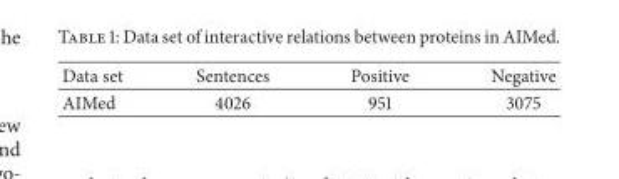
<table><thead><tr><td>Data set</td><td>Sentences</td><td>Positive</td><td>Negative</td></tr></thead><tbody><tr><td>AIMed</td><td>4026</td><td>951</td><td>3075</td></tr></tbody></table>